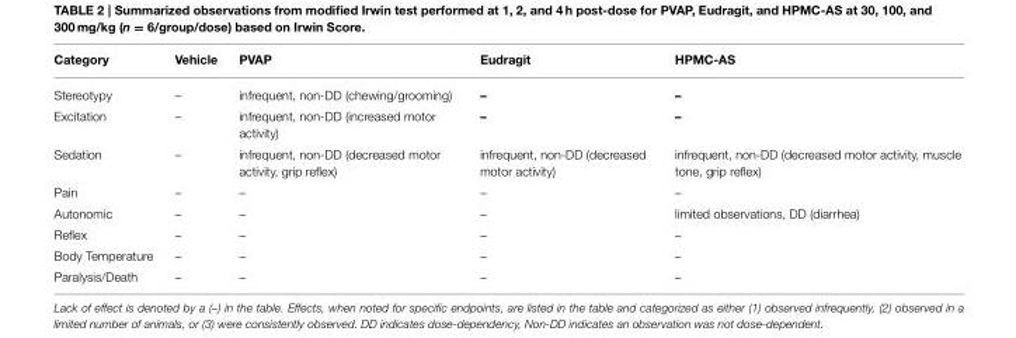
<table><thead><tr><td>Category</td><td>Vehicle</td><td>PVAP</td><td>Eudragit</td><td>HPMC-AS</td></tr></thead><tbody><tr><td>Stereotypy</td><td>–</td><td>infrequent, non-DD (chewing/grooming)</td><td>–</td><td>–</td></tr><tr><td>Excitation</td><td>–</td><td>infrequent, non-DD (increased motor activity)</td><td>–</td><td>–</td></tr><tr><td>Sedation</td><td>–</td><td>infrequent, non-DD (decreased motor activity, grip reflex)</td><td>infrequent, non-DD (decreased motor activity)</td><td>infrequent, non-DD (decreased motor activity, muscle tone, grip reflex)</td></tr><tr><td>Pain</td><td>–</td><td>–</td><td>–</td><td>–</td></tr><tr><td>Autonomic</td><td>–</td><td>–</td><td>–</td><td>limited observations, DD (diarrhea)</td></tr><tr><td>Reflex</td><td>–</td><td>–</td><td>–</td><td>–</td></tr><tr><td>Body Temperature</td><td>–</td><td>–</td><td>–</td><td>–</td></tr><tr><td>Paralysis/Death</td><td>–</td><td>–</td><td>–</td><td>–</td></tr></tbody></table>